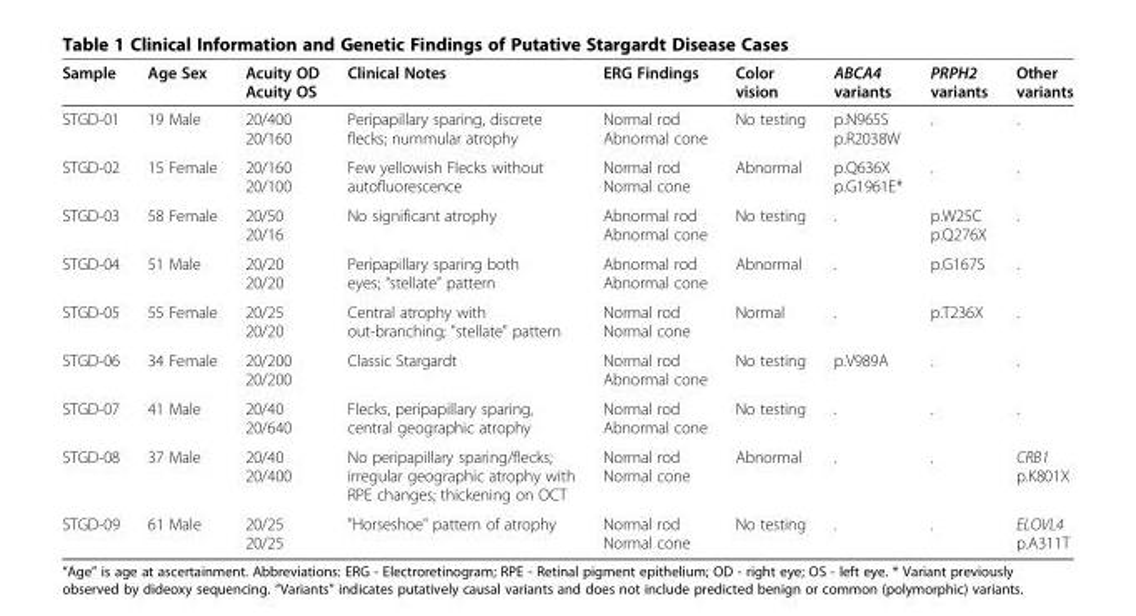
<table><thead><tr><td>Sample</td><td>Age Sex</td><td>Acuity OD Acuity OS</td><td>Clinical Notes</td><td>ERG Findings</td><td>Color vision</td><td>ABCA4 variants</td><td>PRPH2 variants</td><td>Other variants</td></tr></thead><tbody><tr><td>STGD-01</td><td>19 Male</td><td>20/400 20/160</td><td>Peripapillary sparing, discrete flecks; nummular atrophy</td><td>Normal rod Abnormal cone</td><td>No testing</td><td>p.N965S p.R2038W</td><td>.</td><td>.</td></tr><tr><td>STGD-02</td><td>15 Female</td><td>20/160 20/100</td><td>Few yellowish Flecks without autofluorescence</td><td>Normal rod Normal cone</td><td>Abnormal</td><td>p.Q636X p.G1961E*</td><td>.</td><td>.</td></tr><tr><td>STGD-03</td><td>58 Female</td><td>20/50 20/16</td><td>No significant atrophy</td><td>Abnormal rod Abnormal cone</td><td>No testing</td><td>.</td><td>p.W25C p.Q276X</td><td>.</td></tr><tr><td>STGD-04</td><td>51 Male</td><td>20/20 20/20</td><td>Peripapillary sparing both eyes; “stellate” pattern</td><td>Abnormal rod Abnormal cone</td><td>Abnormal</td><td>.</td><td>p.G167S</td><td>.</td></tr><tr><td>STGD-05</td><td>55 Female</td><td>20/25 20/20</td><td>Central atrophy with out-branching; &quot;stellate&quot; pattern</td><td>Normal rod Normal cone</td><td>Normal</td><td>.</td><td>p.T236X</td><td>.</td></tr><tr><td>STGD-06</td><td>34 Female</td><td>20/200 20/200</td><td>Classic Stargardt</td><td>Normal rod Abnormal cone</td><td>No testing</td><td>p.V989A</td><td>.</td><td>.</td></tr><tr><td>STGD-07</td><td>41 Male</td><td>20/40 20/640</td><td>Flecks, peripapillary sparing, central geographic atrophy</td><td>Normal rod Abnormal cone</td><td>No testing</td><td>.</td><td>.</td><td>.</td></tr><tr><td>STGD-08</td><td>37 Male</td><td>20/40 20/400</td><td>No peripapillary sparing/flecks; irregular geographic atrophy with RPE changes; thickening on OCT</td><td>Normal rod Normal cone</td><td>Abnormal</td><td>.</td><td>.</td><td>CRB1 p.K801X</td></tr><tr><td>STGD-09</td><td>61 Male</td><td>20/25 20/25</td><td>&quot;Horseshoe&quot; pattern of atrophy</td><td>Normal rod Normal cone</td><td>No testing</td><td>.</td><td>.</td><td>ELOVL4 p.A311T</td></tr></tbody></table>